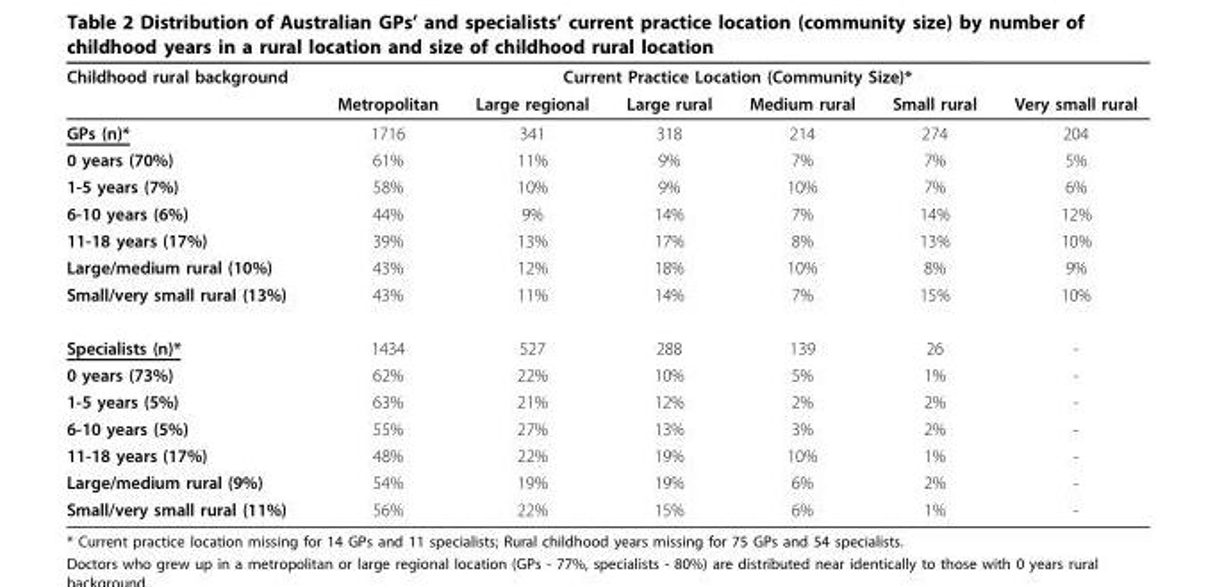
<table><thead><tr><td rowspan="2">Childhood rural background</td><td colspan="6">Current Practice Location (Community Size)*</td></tr><tr><td>Metropolitan</td><td>Large regional</td><td>Large rural</td><td>Medium rural</td><td>Small rural</td><td>Very small rural</td></tr></thead><tbody><tr><td>GPs (n)*</td><td>1716</td><td>341</td><td>318</td><td>214</td><td>274</td><td>204</td></tr><tr><td>0 years (70%)</td><td>61%</td><td>11%</td><td>9%</td><td>7%</td><td>7%</td><td>5%</td></tr><tr><td>1-5 years (7%)</td><td>58%</td><td>10%</td><td>9%</td><td>10%</td><td>7%</td><td>6%</td></tr><tr><td>6-10 years (6%)</td><td>44%</td><td>9%</td><td>14%</td><td>7%</td><td>14%</td><td>12%</td></tr><tr><td>11-18 years (17%)</td><td>39%</td><td>13%</td><td>17%</td><td>8%</td><td>13%</td><td>10%</td></tr><tr><td>Large/medium rural (10%)</td><td>43%</td><td>12%</td><td>18%</td><td>10%</td><td>8%</td><td>9%</td></tr><tr><td>Small/very small rural (13%)</td><td>43%</td><td>11%</td><td>14%</td><td>7%</td><td>15%</td><td>10%</td></tr><tr><td>Specialists (n)*</td><td>1434</td><td>527</td><td>288</td><td>139</td><td>26</td><td>-</td></tr><tr><td>0 years (73%)</td><td>62%</td><td>22%</td><td>10%</td><td>5%</td><td>1%</td><td>-</td></tr><tr><td>1-5 years (5%)</td><td>63%</td><td>21%</td><td>12%</td><td>2%</td><td>2%</td><td>-</td></tr><tr><td>6-10 years (5%)</td><td>55%</td><td>27%</td><td>13%</td><td>3%</td><td>2%</td><td>-</td></tr><tr><td>11-18 years (17%)</td><td>48%</td><td>22%</td><td>19%</td><td>10%</td><td>1%</td><td>-</td></tr><tr><td>Large/medium rural (9%)</td><td>54%</td><td>19%</td><td>19%</td><td>6%</td><td>2%</td><td>-</td></tr><tr><td>Small/very small rural (11%)</td><td>56%</td><td>22%</td><td>15%</td><td>6%</td><td>1%</td><td>-</td></tr></tbody></table>